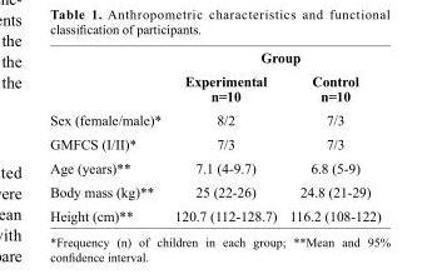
<table><thead><tr><td rowspan="2"></td><td colspan="2">Group</td></tr><tr><td>Experimental n=10</td><td>Control n=10</td></tr></thead><tbody><tr><td>Sex (female/male)*</td><td>8/2</td><td>7/3</td></tr><tr><td>GMFCS (I/II)*</td><td>7/3</td><td>7/3</td></tr><tr><td>Age (years)**</td><td>7.1 (4-9.7)</td><td>6.8 (5-9)</td></tr><tr><td>Body mass (kg)**</td><td>25 (22-26)</td><td>24.8 (21-29)</td></tr><tr><td>Height (cm)**</td><td>120.7 (112-128.7)</td><td>116.2 (108-122)</td></tr></tbody></table>